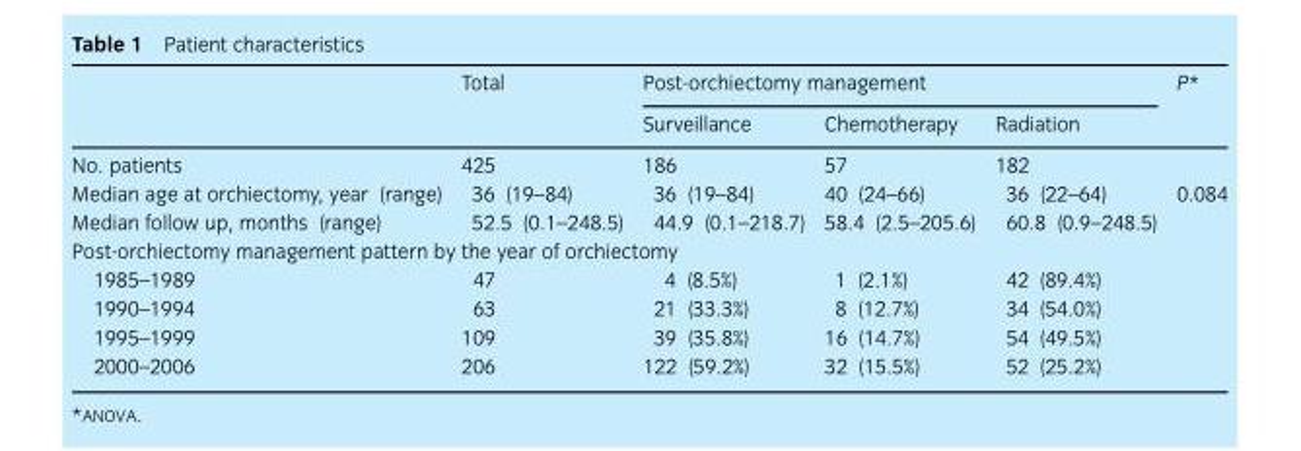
<table><thead><tr><td rowspan="2"></td><td rowspan="2">Total</td><td colspan="3">Post-orchiectomy management</td><td rowspan="2">P*</td></tr><tr><td>Surveillance</td><td>Chemotherapy</td><td>Radiation</td></tr></thead><tbody><tr><td>No. patients</td><td>425</td><td>186</td><td>57</td><td>182</td><td></td></tr><tr><td>Median age at orchiectomy, year (range)</td><td>36 (19–84)</td><td>36 (19–84)</td><td>40 (24–66)</td><td>36 (22–64)</td><td>0.084</td></tr><tr><td>Median follow up, months (range)</td><td>52.5 (0.1–248.5)</td><td>44.9 (0.1–218.7)</td><td>58.4 (2.5–205.6)</td><td>60.8 (0.9–248.5)</td><td></td></tr><tr><td colspan="6">Post-orchiectomy management pattern by the year of orchiectomy</td></tr><tr><td>1985–1989</td><td>47</td><td>4 (8.5%)</td><td>1 (2.1%)</td><td>42 (89.4%)</td><td></td></tr><tr><td>1990–1994</td><td>63</td><td>21 (33.3%)</td><td>8 (12.7%)</td><td>34 (54.0%)</td><td></td></tr><tr><td>1995–1999</td><td>109</td><td>39 (35.8%)</td><td>16 (14.7%)</td><td>54 (49.5%)</td><td></td></tr><tr><td>2000–2006</td><td>206</td><td>122 (59.2%)</td><td>32 (15.5%)</td><td>52 (25.2%)</td><td></td></tr></tbody></table>